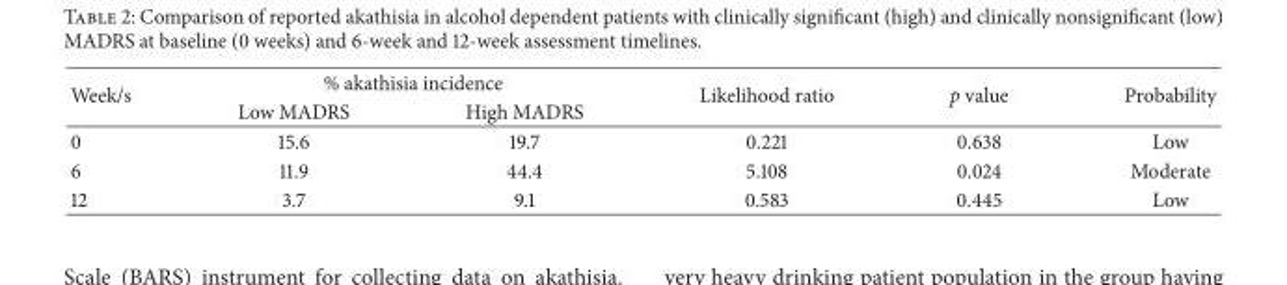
<table><thead><tr><td rowspan="2">Week/s</td><td colspan="2">% akathisia incidence</td><td rowspan="2">Likelihood ratio</td><td rowspan="2">p value</td><td rowspan="2">Probability</td></tr><tr><td>Low MADRS</td><td>High MADRS</td></tr></thead><tbody><tr><td>0</td><td>15.6</td><td>19.7</td><td>0.221</td><td>0.638</td><td>Low</td></tr><tr><td>6</td><td>11.9</td><td>44.4</td><td>5.108</td><td>0.024</td><td>Moderate</td></tr><tr><td>12</td><td>3.7</td><td>9.1</td><td>0.583</td><td>0.445</td><td>Low</td></tr></tbody></table>